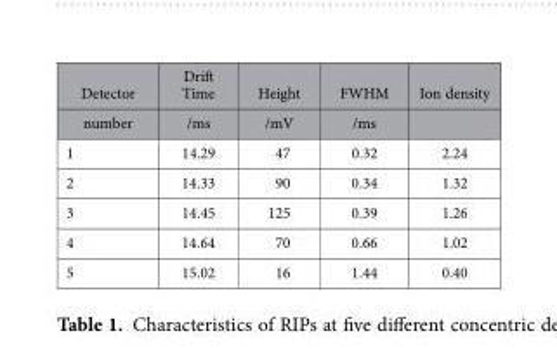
<table><thead><tr><td rowspan="2">Detector number</td><td rowspan="2">Drift Time /ms</td><td rowspan="2">Height /mV</td><td rowspan="2">FWHM /ms</td><td rowspan="2">Ion density</td></tr><tr></tr></thead><tbody><tr><td>1</td><td>14.29</td><td>47</td><td>0.32</td><td>2.24</td></tr><tr><td>2</td><td>14.33</td><td>90</td><td>0.34</td><td>1.32</td></tr><tr><td>3</td><td>14.45</td><td>125</td><td>0.39</td><td>1.26</td></tr><tr><td>4</td><td>14.64</td><td>70</td><td>0.66</td><td>1.02</td></tr><tr><td>5</td><td>15.02</td><td>16</td><td>1.44</td><td>0.40</td></tr></tbody></table>